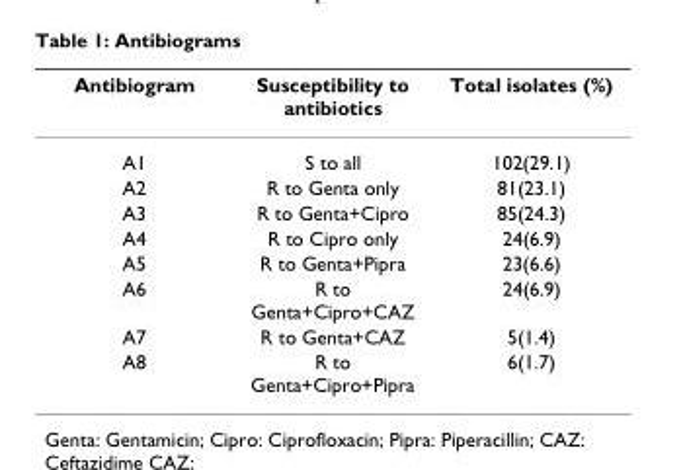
<table><thead><tr><td>Antibiogram</td><td>Susceptibility to antibiotics</td><td>Total isolates (%)</td></tr></thead><tbody><tr><td>A1</td><td>S to all</td><td>102(29.1)</td></tr><tr><td>A2</td><td>R to Genta only</td><td>81(23.1)</td></tr><tr><td>A3</td><td>R to Genta+Cipro</td><td>85(24.3)</td></tr><tr><td>A4</td><td>R to Cipro only</td><td>24(6.9)</td></tr><tr><td>A5</td><td>R to Genta+Pipra</td><td>23(6.6)</td></tr><tr><td>A6</td><td>R to Genta+Cipro+CAZ</td><td>24(6.9)</td></tr><tr><td>A7</td><td>R to Genta+CAZ</td><td>5(1.4)</td></tr><tr><td>A8</td><td>R to Genta+Cipro+Pipra</td><td>6(1.7)</td></tr></tbody></table>